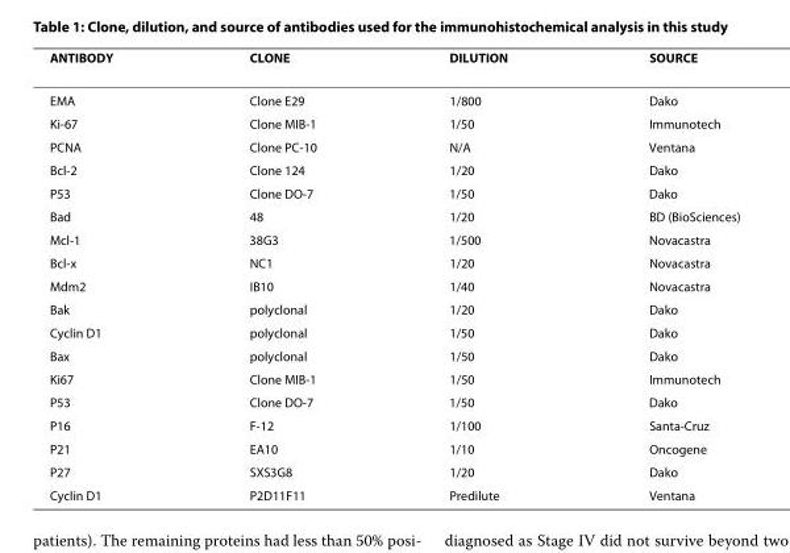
<table><thead><tr><td>ANTIBODY</td><td>CLONE</td><td>DILUTION</td><td>SOURCE</td></tr></thead><tbody><tr><td>EMA</td><td>Clone E29</td><td>1/800</td><td>Dako</td></tr><tr><td>Ki-67</td><td>Clone MIB-1</td><td>1/50</td><td>Immunotech</td></tr><tr><td>PCNA</td><td>Clone PC-10</td><td>N/A</td><td>Ventana</td></tr><tr><td>Bcl-2</td><td>Clone 124</td><td>1/20</td><td>Dako</td></tr><tr><td>P53</td><td>Clone DO-7</td><td>1/50</td><td>Dako</td></tr><tr><td>Bad</td><td>48</td><td>1/20</td><td>BD (BioSciences)</td></tr><tr><td>Mcl-1</td><td>38G3</td><td>1/500</td><td>Novacastra</td></tr><tr><td>Bcl-x</td><td>NC1</td><td>1/20</td><td>Novacastra</td></tr><tr><td>Mdm2</td><td>IB10</td><td>1/40</td><td>Novacastra</td></tr><tr><td>Bak</td><td>polyclonal</td><td>1/20</td><td>Dako</td></tr><tr><td>Cyclin D1</td><td>polyclonal</td><td>1/50</td><td>Dako</td></tr><tr><td>Bax</td><td>polyclonal</td><td>1/50</td><td>Dako</td></tr><tr><td>Ki67</td><td>Clone MIB-1</td><td>1/50</td><td>Immunotech</td></tr><tr><td>P53</td><td>Clone DO-7</td><td>1/50</td><td>Dako</td></tr><tr><td>P16</td><td>F-12</td><td>1/100</td><td>Santa-Cruz</td></tr><tr><td>P21</td><td>EA10</td><td>1/10</td><td>Oncogene</td></tr><tr><td>P27</td><td>SXS3G8</td><td>1/20</td><td>Dako</td></tr><tr><td>Cyclin D1</td><td>P2D11F11</td><td>Predilute</td><td>Ventana</td></tr></tbody></table>